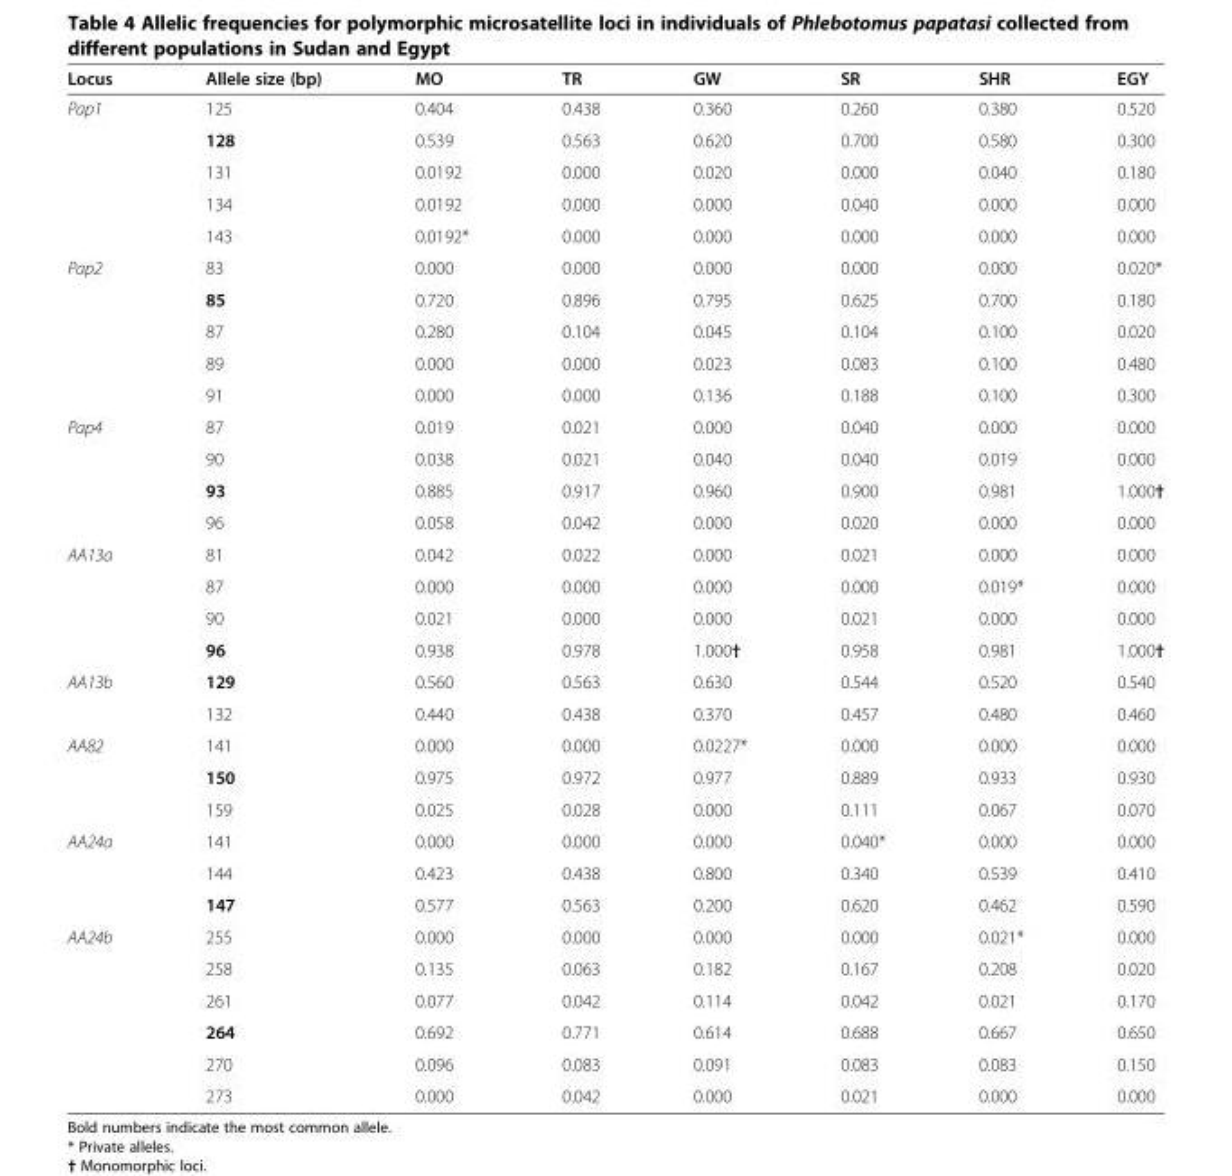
<table><thead><tr><td>Locus</td><td>Allele size (bp)</td><td>MO</td><td>TR</td><td>GW</td><td>SR</td><td>SHR</td><td>EGY</td></tr></thead><tbody><tr><td rowspan="5">Pap1</td><td>125</td><td>0.404</td><td>0.438</td><td>0.360</td><td>0.260</td><td>0.380</td><td>0.520</td></tr><tr><td>128</td><td>0.539</td><td>0.563</td><td>0.620</td><td>0.700</td><td>0.580</td><td>0.300</td></tr><tr><td>131</td><td>0.0192</td><td>0.000</td><td>0.020</td><td>0.000</td><td>0.040</td><td>0.180</td></tr><tr><td>134</td><td>0.0192</td><td>0.000</td><td>0.000</td><td>0.040</td><td>0.000</td><td>0.000</td></tr><tr><td>143</td><td>0.0192*</td><td>0.000</td><td>0.000</td><td>0.000</td><td>0.000</td><td>0.000</td></tr><tr><td rowspan="5">Pap2</td><td>83</td><td>0.000</td><td>0.000</td><td>0.000</td><td>0.000</td><td>0.000</td><td>0.020*</td></tr><tr><td>85</td><td>0.720</td><td>0.896</td><td>0.795</td><td>0.625</td><td>0.700</td><td>0.180</td></tr><tr><td>87</td><td>0.280</td><td>0.104</td><td>0.045</td><td>0.104</td><td>0.100</td><td>0.020</td></tr><tr><td>89</td><td>0.000</td><td>0.000</td><td>0.023</td><td>0.083</td><td>0.100</td><td>0.480</td></tr><tr><td>91</td><td>0.000</td><td>0.000</td><td>0.136</td><td>0.188</td><td>0.100</td><td>0.300</td></tr><tr><td rowspan="4">Pap4</td><td>87</td><td>0.019</td><td>0.021</td><td>0.000</td><td>0.040</td><td>0.000</td><td>0.000</td></tr><tr><td>90</td><td>0.038</td><td>0.021</td><td>0.040</td><td>0.040</td><td>0.019</td><td>0.000</td></tr><tr><td>93</td><td>0.885</td><td>0.917</td><td>0.960</td><td>0.900</td><td>0.981</td><td>1.000†</td></tr><tr><td>96</td><td>0.058</td><td>0.042</td><td>0.000</td><td>0.020</td><td>0.000</td><td>0.000</td></tr><tr><td rowspan="4">AA13a</td><td>81</td><td>0.042</td><td>0.022</td><td>0.000</td><td>0.021</td><td>0.000</td><td>0.000</td></tr><tr><td>87</td><td>0.000</td><td>0.000</td><td>0.000</td><td>0.000</td><td>0.019*</td><td>0.000</td></tr><tr><td>90</td><td>0.021</td><td>0.000</td><td>0.000</td><td>0.021</td><td>0.000</td><td>0.000</td></tr><tr><td>96</td><td>0.938</td><td>0.978</td><td>1.000†</td><td>0.958</td><td>0.981</td><td>1.000†</td></tr><tr><td rowspan="2">AA13b</td><td>129</td><td>0.560</td><td>0.563</td><td>0.630</td><td>0.544</td><td>0.520</td><td>0.540</td></tr><tr><td>132</td><td>0.440</td><td>0.438</td><td>0.370</td><td>0.457</td><td>0.480</td><td>0.460</td></tr><tr><td rowspan="3">AA82</td><td>141</td><td>0.000</td><td>0.000</td><td>0.0227*</td><td>0.000</td><td>0.000</td><td>0.000</td></tr><tr><td>150</td><td>0.975</td><td>0.972</td><td>0.977</td><td>0.889</td><td>0.933</td><td>0.930</td></tr><tr><td>159</td><td>0.025</td><td>0.028</td><td>0.000</td><td>0.111</td><td>0.067</td><td>0.070</td></tr><tr><td rowspan="3">AA24a</td><td>141</td><td>0.000</td><td>0.000</td><td>0.000</td><td>0.040*</td><td>0.000</td><td>0.000</td></tr><tr><td>144</td><td>0.423</td><td>0.438</td><td>0.800</td><td>0.340</td><td>0.539</td><td>0.410</td></tr><tr><td>147</td><td>0.577</td><td>0.563</td><td>0.200</td><td>0.620</td><td>0.462</td><td>0.590</td></tr><tr><td rowspan="6">AA24b</td><td>255</td><td>0.000</td><td>0.000</td><td>0.000</td><td>0.000</td><td>0.021*</td><td>0.000</td></tr><tr><td>258</td><td>0.135</td><td>0.063</td><td>0.182</td><td>0.167</td><td>0.208</td><td>0.020</td></tr><tr><td>261</td><td>0.077</td><td>0.042</td><td>0.114</td><td>0.042</td><td>0.021</td><td>0.170</td></tr><tr><td>264</td><td>0.692</td><td>0.771</td><td>0.614</td><td>0.688</td><td>0.667</td><td>0.650</td></tr><tr><td>270</td><td>0.096</td><td>0.083</td><td>0.091</td><td>0.083</td><td>0.083</td><td>0.150</td></tr><tr><td>273</td><td>0.000</td><td>0.042</td><td>0.000</td><td>0.021</td><td>0.000</td><td>0.000</td></tr></tbody></table>